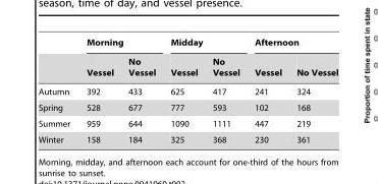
<table><thead><tr><td rowspan="2"></td><td colspan="2">Morning</td><td colspan="2">Midday</td><td colspan="2">Afternoon</td></tr><tr><td>Vessel</td><td>No Vessel</td><td>Vessel</td><td>No Vessel</td><td>Vessel</td><td>No Vessel</td></tr></thead><tbody><tr><td>Autumn</td><td>392</td><td>433</td><td>625</td><td>417</td><td>241</td><td>324</td></tr><tr><td>Spring</td><td>528</td><td>677</td><td>777</td><td>593</td><td>102</td><td>168</td></tr><tr><td>Summer</td><td>959</td><td>644</td><td>1090</td><td>1111</td><td>447</td><td>219</td></tr><tr><td>Winter</td><td>158</td><td>184</td><td>325</td><td>368</td><td>230</td><td>361</td></tr></tbody></table>